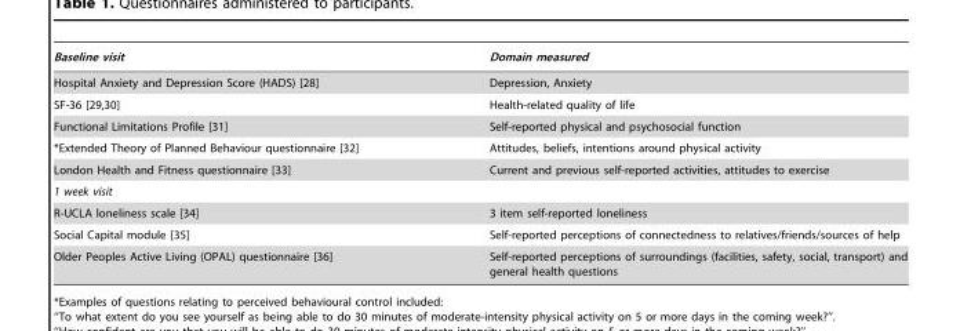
<table><thead><tr><td>Baseline visit</td><td>Domain measured</td></tr></thead><tbody><tr><td>Hospital Anxiety and Depression Score (HADS) [28]</td><td>Depression, Anxiety</td></tr><tr><td>SF-36 [29,30]</td><td>Health-related quality of life</td></tr><tr><td>Functional Limitations Profile [31]</td><td>Self-reported physical and psychosocial function</td></tr><tr><td>*Extended Theory of Planned Behaviour questionnaire [32]</td><td>Attitudes, beliefs, intentions around physical activity</td></tr><tr><td>London Health and Fitness questionnaire [33]</td><td>Current and previous self-reported activities, attitudes to exercise</td></tr><tr><td colspan="2">1 week visit</td></tr><tr><td>R-UCLA loneliness scale [34]</td><td>3 item self-reported loneliness</td></tr><tr><td>Social Capital module [35]</td><td>Self-reported perceptions of connectedness to relatives/friends/sources of help</td></tr><tr><td>Older Peoples Active Living (OPAL) questionnaire [36]</td><td>Self-reported perceptions of surroundings (facilities, safety, social, transport) and general health questions</td></tr></tbody></table>